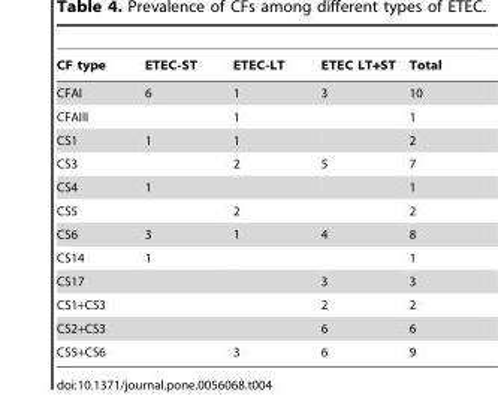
<table><thead><tr><td>CF type</td><td>ETEC-ST</td><td>ETEC-LT</td><td>ETEC LT+ST</td><td>Total</td></tr></thead><tbody><tr><td>CFAI</td><td>6</td><td>1</td><td>3</td><td>10</td></tr><tr><td>CFAIII</td><td></td><td>1</td><td></td><td>1</td></tr><tr><td>CS1</td><td>1</td><td>1</td><td></td><td>2</td></tr><tr><td>CS3</td><td></td><td>2</td><td>5</td><td>7</td></tr><tr><td>CS4</td><td>1</td><td></td><td></td><td>1</td></tr><tr><td>CS5</td><td></td><td>2</td><td></td><td>2</td></tr><tr><td>CS6</td><td>3</td><td>1</td><td>4</td><td>8</td></tr><tr><td>CS14</td><td>1</td><td></td><td></td><td>1</td></tr><tr><td>CS17</td><td></td><td></td><td>3</td><td>3</td></tr><tr><td>CS1+CS3</td><td></td><td></td><td>2</td><td>2</td></tr><tr><td>CS2+CS3</td><td></td><td></td><td>6</td><td>6</td></tr><tr><td>CS5+CS6</td><td></td><td>3</td><td>6</td><td>9</td></tr></tbody></table>